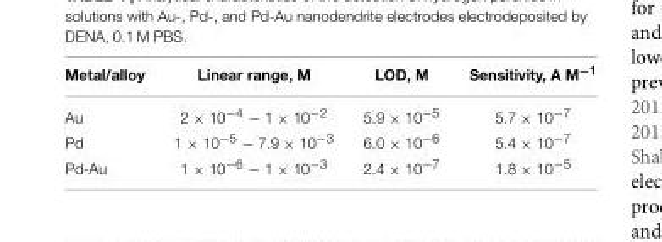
<table><thead><tr><td>Metal/alloy</td><td>Linear range, M</td><td>LOD, M</td><td>Sensitivity, A M<sup>−1</sup></td></tr></thead><tbody><tr><td>Au</td><td>2 × 10<sup>−4</sup> − 1 × 10<sup>−2</sup></td><td>5.9 × 10<sup>−5</sup></td><td>5.7 × 10<sup>−7</sup></td></tr><tr><td>Pd</td><td>1 × 10<sup>−5</sup> − 7.9 × 10<sup>−3</sup></td><td>6.0 × 10<sup>−6</sup></td><td>5.4 × 10<sup>−7</sup></td></tr><tr><td>Pd-Au</td><td>1 × 10<sup>−6</sup> − 1 × 10<sup>−3</sup></td><td>2.4 × 10<sup>−7</sup></td><td>1.8 × 10<sup>−5</sup></td></tr></tbody></table>